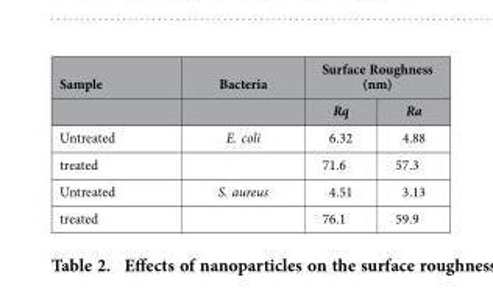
<table><thead><tr><td rowspan="2">Sample</td><td rowspan="2">Bacteria</td><td colspan="2">Surface Roughness (nm)</td></tr><tr><td>Rq</td><td>Ra</td></tr></thead><tbody><tr><td>Untreated</td><td>E. coli</td><td>6.32</td><td>4.88</td></tr><tr><td>treated</td><td></td><td>71.6</td><td>57.3</td></tr><tr><td>Untreated</td><td>S. aureus</td><td>4.51</td><td>3.13</td></tr><tr><td>treated</td><td></td><td>76.1</td><td>59.9</td></tr></tbody></table>